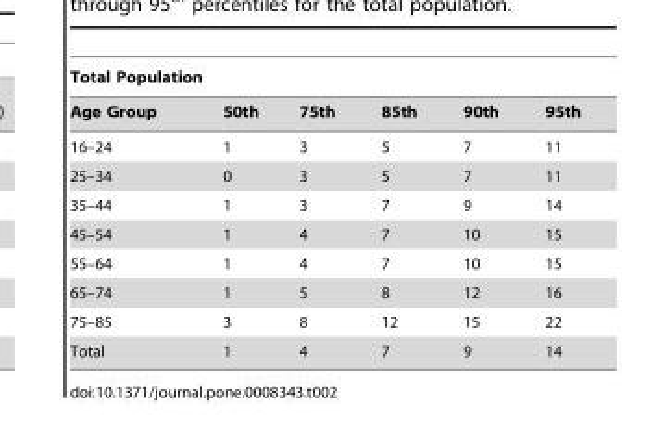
<table><thead><tr><td colspan="6">Total Population</td></tr><tr><td>Age Group</td><td>50th</td><td>75th</td><td>85th</td><td>90th</td><td>95th</td></tr></thead><tbody><tr><td>16–24</td><td>1</td><td>3</td><td>5</td><td>7</td><td>11</td></tr><tr><td>25–34</td><td>0</td><td>3</td><td>5</td><td>7</td><td>11</td></tr><tr><td>35–44</td><td>1</td><td>3</td><td>7</td><td>9</td><td>14</td></tr><tr><td>45–54</td><td>1</td><td>4</td><td>7</td><td>10</td><td>15</td></tr><tr><td>55–64</td><td>1</td><td>4</td><td>7</td><td>10</td><td>15</td></tr><tr><td>65–74</td><td>1</td><td>5</td><td>8</td><td>12</td><td>16</td></tr><tr><td>75–85</td><td>3</td><td>8</td><td>12</td><td>15</td><td>22</td></tr><tr><td>Total</td><td>1</td><td>4</td><td>7</td><td>9</td><td>14</td></tr></tbody></table>